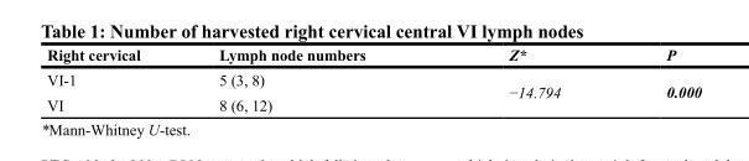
<table><thead><tr><td>Right cervical</td><td>Lymph node numbers</td><td>Z*</td><td>P</td></tr></thead><tbody><tr><td>VI-1</td><td>5 (3, 8)</td><td rowspan="2">−14.794</td><td rowspan="2">0.000</td></tr><tr><td>VI</td><td>8 (6, 12)</td></tr></tbody></table>